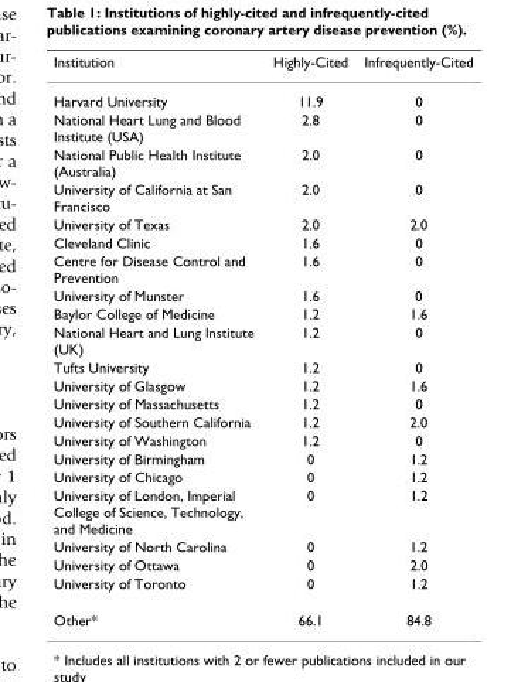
<table><thead><tr><td>Institution</td><td>Highly-Cited</td><td>Infrequently-Cited</td></tr></thead><tbody><tr><td>Harvard University</td><td>11.9</td><td>0</td></tr><tr><td>National Heart Lung and Blood Institute (USA)</td><td>2.8</td><td>0</td></tr><tr><td>National Public Health Institute (Australia)</td><td>2.0</td><td>0</td></tr><tr><td>University of California at San Francisco</td><td>2.0</td><td>0</td></tr><tr><td>University of Texas</td><td>2.0</td><td>2.0</td></tr><tr><td>Cleveland Clinic</td><td>1.6</td><td>0</td></tr><tr><td>Centre for Disease Control and Prevention</td><td>1.6</td><td>0</td></tr><tr><td>University of Munster</td><td>1.6</td><td>0</td></tr><tr><td>Baylor College of Medicine</td><td>1.2</td><td>1.6</td></tr><tr><td>National Heart and Lung Institute (UK)</td><td>1.2</td><td>0</td></tr><tr><td>Tufts University</td><td>1.2</td><td>0</td></tr><tr><td>University of Glasgow</td><td>1.2</td><td>1.6</td></tr><tr><td>University of Massachusetts</td><td>1.2</td><td>0</td></tr><tr><td>University of Southern California</td><td>1.2</td><td>2.0</td></tr><tr><td>University of Washington</td><td>1.2</td><td>0</td></tr><tr><td>University of Birmingham</td><td>0</td><td>1.2</td></tr><tr><td>University of Chicago</td><td>0</td><td>1.2</td></tr><tr><td>University of London, Imperial College of Science, Technology, and Medicine</td><td>0</td><td>1.2</td></tr><tr><td>University of North Carolina</td><td>0</td><td>1.2</td></tr><tr><td>University of Ottawa</td><td>0</td><td>2.0</td></tr><tr><td>University of Toronto</td><td>0</td><td>1.2</td></tr><tr><td>Other*</td><td>66.1</td><td>84.8</td></tr></tbody></table>